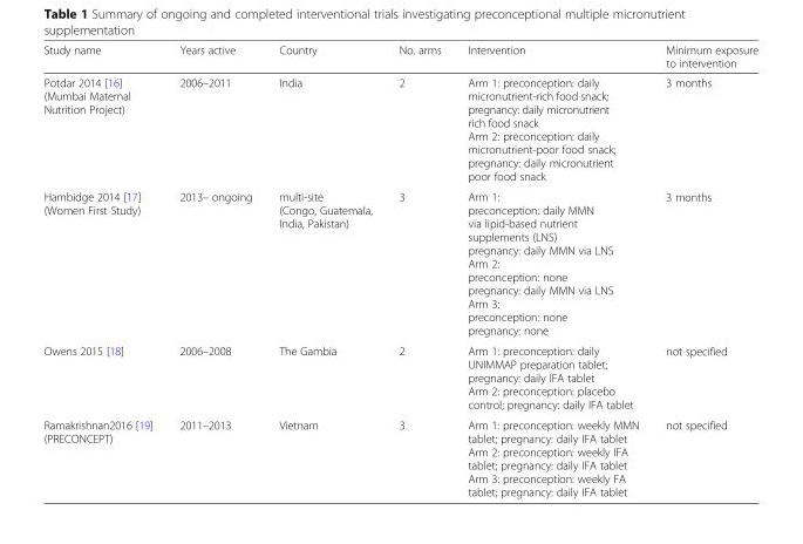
<table><thead><tr><td>Study name</td><td>Years active</td><td>Country</td><td>No. arms</td><td>Intervention</td><td>Minimum exposure to intervention</td></tr></thead><tbody><tr><td>Potdar 2014 [16] (Mumbai Maternal Nutrition Project)</td><td>2006–2011</td><td>India</td><td>2</td><td>Arm 1: preconception: daily micronutrient-rich food snack; pregnancy: daily micronutrient rich food snack Arm 2: preconception: daily micronutrient-poor food snack; pregnancy: daily micronutrient poor food snack</td><td>3 months</td></tr><tr><td>Hambidge 2014 [17] (Women First Study)</td><td>2013– ongoing</td><td>multi-site (Congo, Guatemala, India, Pakistan)</td><td>3</td><td>Arm 1: preconception: daily MMN via lipid-based nutrient supplements (LNS) pregnancy: daily MMN via LNS Arm 2: preconception: none pregnancy: daily MMN via LNS Arm 3: preconception: none pregnancy: none</td><td>3 months</td></tr><tr><td>Owens 2015 [18]</td><td>2006–2008</td><td>The Gambia</td><td>2</td><td>Arm 1: preconception: daily UNIMMAP preparation tablet; pregnancy: daily IFA tablet Arm 2: preconception: placebo control; pregnancy: daily IFA tablet</td><td>not specified</td></tr><tr><td>Ramakrishnan2016 [19] (PRECONCEPT)</td><td>2011–2013</td><td>Vietnam</td><td>3</td><td>Arm 1: preconception: weekly MMN tablet; pregnancy: daily IFA tablet Arm 2: preconception: weekly IFA tablet; pregnancy: daily IFA tablet Arm 3: preconception: weekly FA tablet; pregnancy: daily IFA tablet</td><td>not specified</td></tr></tbody></table>